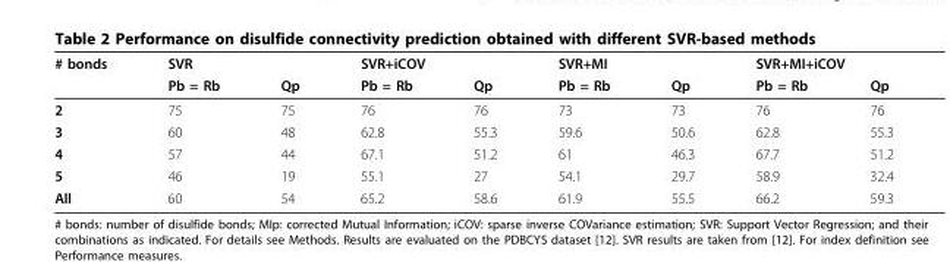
<table><thead><tr><td rowspan="2"># bonds</td><td colspan="2">SVR</td><td colspan="2">SVR+iCOV</td><td colspan="2">SVR+MI</td><td colspan="2">SVR+MI+iCOV</td></tr><tr><td>Pb = Rb</td><td>Qp</td><td>Pb = Rb</td><td>Qp</td><td>Pb = Rb</td><td>Qp</td><td>Pb = Rb</td><td>Qp</td></tr></thead><tbody><tr><td>2</td><td>75</td><td>75</td><td>76</td><td>76</td><td>73</td><td>73</td><td>76</td><td>76</td></tr><tr><td>3</td><td>60</td><td>48</td><td>62.8</td><td>55.3</td><td>59.6</td><td>50.6</td><td>62.8</td><td>55.3</td></tr><tr><td>4</td><td>57</td><td>44</td><td>67.1</td><td>51.2</td><td>61</td><td>46.3</td><td>67.7</td><td>51.2</td></tr><tr><td>5</td><td>46</td><td>19</td><td>55.1</td><td>27</td><td>54.1</td><td>29.7</td><td>58.9</td><td>32.4</td></tr><tr><td>All</td><td>60</td><td>54</td><td>65.2</td><td>58.6</td><td>61.9</td><td>55.5</td><td>66.2</td><td>59.3</td></tr></tbody></table>